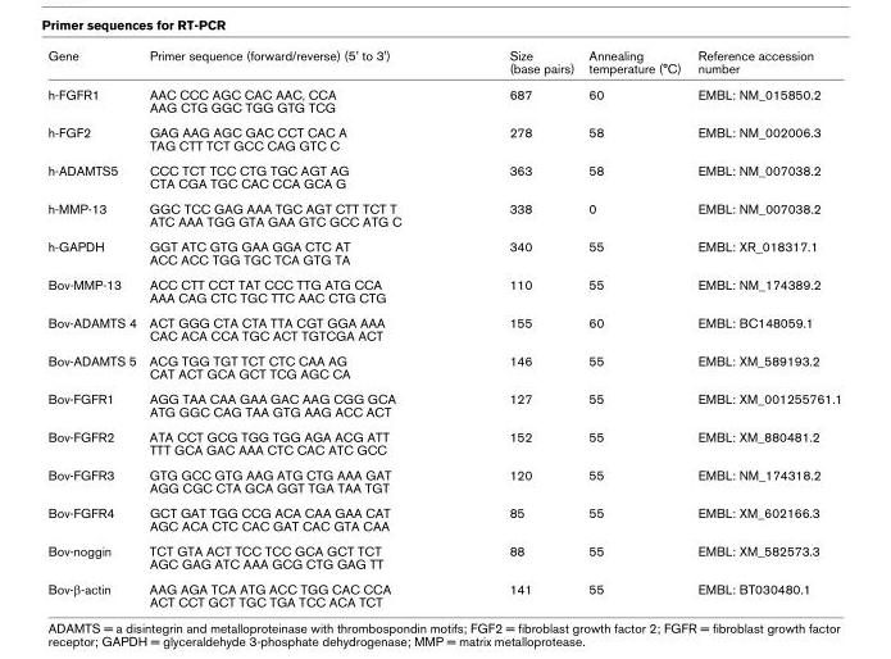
<table><thead><tr><td>Gene</td><td>Primer sequence (forward/reverse) (5&#x27; to 3&#x27;)</td><td>Size (base pairs)</td><td>Annealing temperature (°C)</td><td>Reference accession number</td></tr></thead><tbody><tr><td>h-FGFR1</td><td>AAC CCC AGC CAC AAC, CCA AAG CTG GGC TGG GTG TCG</td><td>687</td><td>60</td><td>EMBL: NM_015850.2</td></tr><tr><td>h-FGF2</td><td>GAG AAG AGC GAC CCT CAC A TAG CTT TCT GCC CAG GTC C</td><td>278</td><td>58</td><td>EMBL: NM_002006.3</td></tr><tr><td>h-ADAMTS5</td><td>CCC TCT TCC CTG TGC AGT AG CTA CGA TGC CAC CCA GCA G</td><td>363</td><td>58</td><td>EMBL: NM_007038.2</td></tr><tr><td>h-MMP-13</td><td>GGC TCC GAG AAA TGC AGT CTT TCT T ATC AAA TGG GTA GAA GTC GCC ATG C</td><td>338</td><td>0</td><td>EMBL: NM_007038.2</td></tr><tr><td>h-GAPDH</td><td>GGT ATC GTG GAA GGA CTC AT ACC ACC TGG TGC TCA GTG TA</td><td>340</td><td>55</td><td>EMBL: XR_018317.1</td></tr><tr><td>Bov-MMP-13</td><td>ACC CTT CCT TAT CCC TTG ATG CCA AAA CAG CTC TGC TTC AAC CTG CTG</td><td>110</td><td>55</td><td>EMBL: NM_174389.2</td></tr><tr><td>Bov-ADAMTS 4</td><td>ACT GGG CTA CTA TTA CGT GGA AAA CAC ACA CCA TGC ACT TGTCGA ACT</td><td>155</td><td>60</td><td>EMBL: BC148059.1</td></tr><tr><td>Bov-ADAMTS 5</td><td>ACG TGG TGT TCT CTC CAA AG CAT ACT GCA GCT TCG AGC CA</td><td>146</td><td>55</td><td>EMBL: XM_589193.2</td></tr><tr><td>Bov-FGFR1</td><td>AGG TAA CAA GAA GAC AAG CGG GCA ATG GGC CAG TAA GTG AAG ACC ACT</td><td>127</td><td>55</td><td>EMBL: XM_001255761.1</td></tr><tr><td>Bov-FGFR2</td><td>ATA CCT GCG TGG TGG AGA ACG ATT TTT GCA GAC AAA CTC CAC ATC GCC</td><td>152</td><td>55</td><td>EMBL: XM_880481.2</td></tr><tr><td>Bov-FGFR3</td><td>GTG GCC GTG AAG ATG CTG AAA GAT AGG CGC CTA GCA GGT TGA TAA TGT</td><td>120</td><td>55</td><td>EMBL: NM_174318.2</td></tr><tr><td>Bov-FGFR4</td><td>GCT GAT TGG CCG ACA CAA GAA CAT AGC ACA CTC CAC GAT CAC GTA CAA</td><td>85</td><td>55</td><td>EMBL: XM_602166.3</td></tr><tr><td>Bov-noggin</td><td>TCT GTA ACT TCC TCC GCA GCT TCT AGC GAG ATC AAA GCG CTG GAG TT</td><td>88</td><td>55</td><td>EMBL: XM_582573.3</td></tr><tr><td>Bov-β-actin</td><td>AAG AGA TCA ATG ACC TGG CAC CCA ACT CCT GCT TGC TGA TCC ACA TCT</td><td>141</td><td>55</td><td>EMBL: BT030480.1</td></tr></tbody></table>